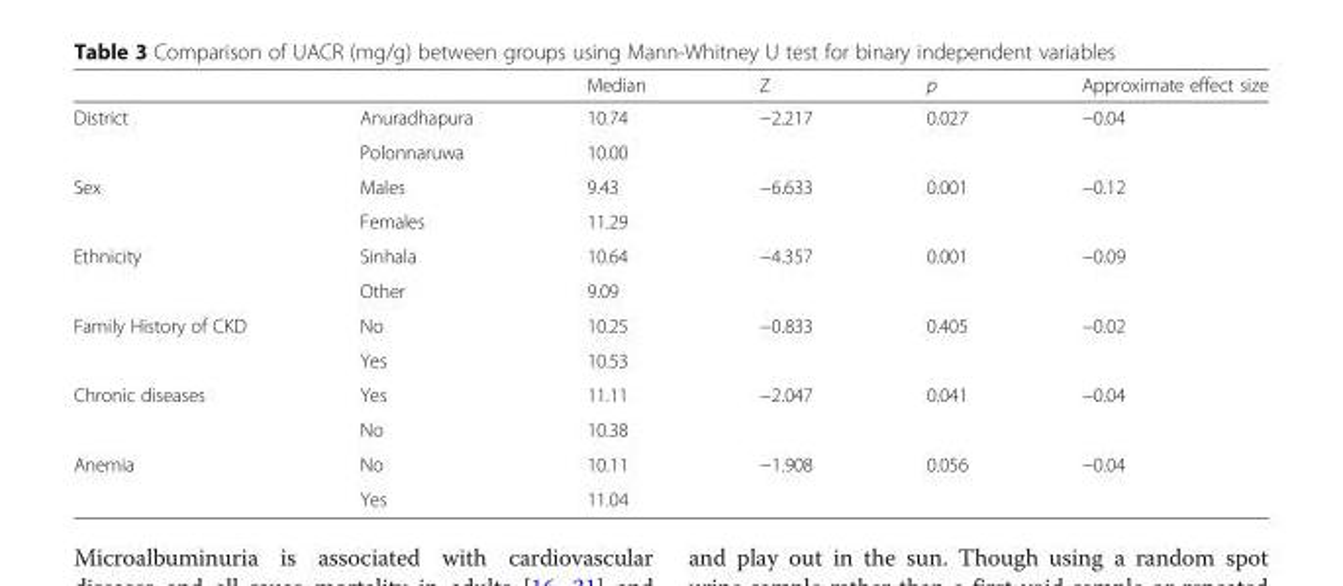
<table><thead><tr><td></td><td></td><td>Median</td><td>Z</td><td>p</td><td>Approximate effect size</td></tr></thead><tbody><tr><td rowspan="2">District</td><td>Anuradhapura</td><td>10.74</td><td rowspan="2">−2.217</td><td rowspan="2">0.027</td><td rowspan="2">−0.04</td></tr><tr><td>Polonnaruwa</td><td>10.00</td></tr><tr><td rowspan="2">Sex</td><td>Males</td><td>9.43</td><td rowspan="2">−6.633</td><td rowspan="2">0.001</td><td rowspan="2">−0.12</td></tr><tr><td>Females</td><td>11.29</td></tr><tr><td rowspan="2">Ethnicity</td><td>Sinhala</td><td>10.64</td><td rowspan="2">−4.357</td><td rowspan="2">0.001</td><td rowspan="2">−0.09</td></tr><tr><td>Other</td><td>9.09</td></tr><tr><td rowspan="2">Family History of CKD</td><td>No</td><td>10.25</td><td rowspan="2">−0.833</td><td rowspan="2">0.405</td><td rowspan="2">−0.02</td></tr><tr><td>Yes</td><td>10.53</td></tr><tr><td rowspan="2">Chronic diseases</td><td>Yes</td><td>11.11</td><td rowspan="2">−2.047</td><td rowspan="2">0.041</td><td rowspan="2">−0.04</td></tr><tr><td>No</td><td>10.38</td></tr><tr><td rowspan="2">Anemia</td><td>No</td><td>10.11</td><td rowspan="2">−1.908</td><td rowspan="2">0.056</td><td rowspan="2">−0.04</td></tr><tr><td>Yes</td><td>11.04</td></tr></tbody></table>